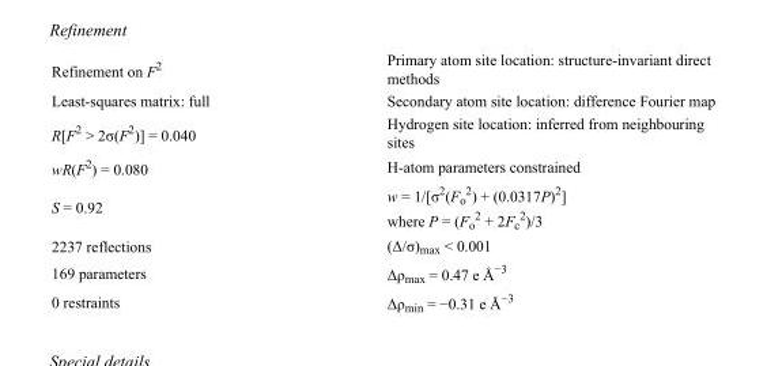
<table><tbody><tr><td>Refinement on F<sup>2</sup></td><td>Primary atom site location: structure-invariant direct methods</td></tr><tr><td>Least-squares matrix: full</td><td>Secondary atom site location: difference Fourier map</td></tr><tr><td>R[F<sup>2</sup> &gt; 2σ(F<sup>2</sup>)] = 0.040</td><td>Hydrogen site location: inferred from neighbouring sites</td></tr><tr><td>wR(F<sup>2</sup>) = 0.080</td><td>H-atom parameters constrained</td></tr><tr><td>S = 0.92</td><td>w = 1/[σ<sup>2</sup>(F<sub>o</sub> <sup>2</sup>) + (0.0317P)<sup>2</sup>] where P = (F<sub>o</sub> <sup>2</sup> + 2F<sub>c</sub> <sup>2</sup>)/3</td></tr><tr><td>2237 reflections</td><td>(Δ/σ)<sub>max</sub> &lt; 0.001</td></tr><tr><td>169 parameters</td><td>Δρ<sub>max</sub> = 0.47 e Å<sup>−3</sup></td></tr><tr><td>0 restraints</td><td>Δρ<sub>min</sub> = −0.31 e Å<sup>−3</sup></td></tr></tbody></table>